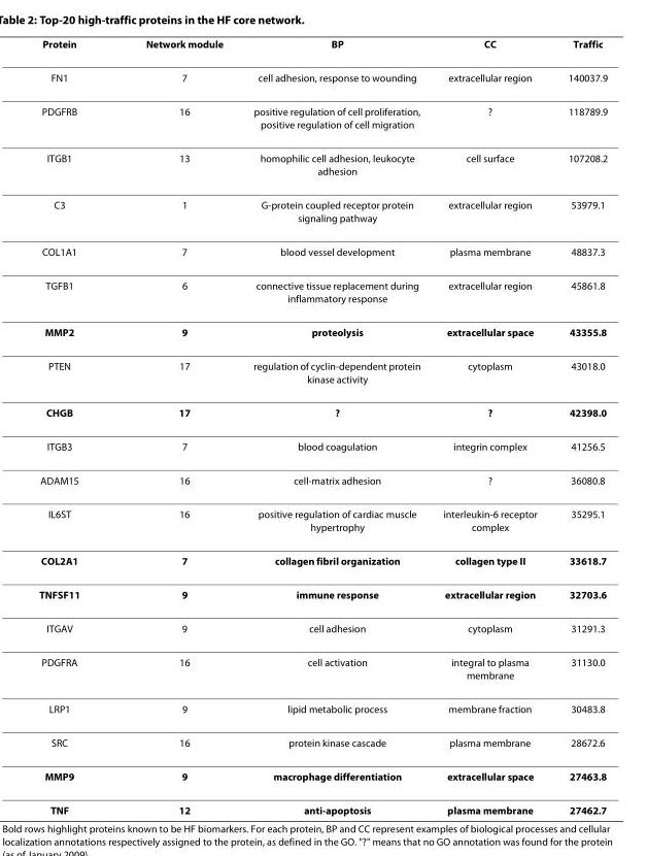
<table><thead><tr><td>Protein</td><td>Network module</td><td>BP</td><td>CC</td><td>Traffic</td></tr></thead><tbody><tr><td>FN1</td><td>7</td><td>cell adhesion, response to wounding</td><td>extracellular region</td><td>140037.9</td></tr><tr><td>PDGFRB</td><td>16</td><td>positive regulation of cell proliferation, positive regulation of cell migration</td><td>?</td><td>118789.9</td></tr><tr><td>ITGB1</td><td>13</td><td>homophilic cell adhesion, leukocyte adhesion</td><td>cell surface</td><td>107208.2</td></tr><tr><td>C3</td><td>1</td><td>G-protein coupled receptor protein signaling pathway</td><td>extracellular region</td><td>53979.1</td></tr><tr><td>COL1A1</td><td>7</td><td>blood vessel development</td><td>plasma membrane</td><td>48837.3</td></tr><tr><td>TGFB1</td><td>6</td><td>connective tissue replacement during inflammatory response</td><td>extracellular region</td><td>45861.8</td></tr><tr><td>MMP2</td><td>9</td><td>proteolysis</td><td>extracellular space</td><td>43355.8</td></tr><tr><td>PTEN</td><td>17</td><td>regulation of cyclin-dependent protein kinase activity</td><td>cytoplasm</td><td>43018.0</td></tr><tr><td>CHGB</td><td>17</td><td>?</td><td>?</td><td>42398.0</td></tr><tr><td>ITGB3</td><td>7</td><td>blood coagulation</td><td>integrin complex</td><td>41256.5</td></tr><tr><td>ADAM15</td><td>16</td><td>cell-matrix adhesion</td><td>?</td><td>36080.8</td></tr><tr><td>IL6ST</td><td>16</td><td>positive regulation of cardiac muscle hypertrophy</td><td>interleukin-6 receptor complex</td><td>35295.1</td></tr><tr><td>COL2A1</td><td>7</td><td>collagen fibril organization</td><td>collagen type II</td><td>33618.7</td></tr><tr><td>TNFSF11</td><td>9</td><td>immune response</td><td>extracellular region</td><td>32703.6</td></tr><tr><td>ITGAV</td><td>9</td><td>cell adhesion</td><td>cytoplasm</td><td>31291.3</td></tr><tr><td>PDGFRA</td><td>16</td><td>cell activation</td><td>integral to plasma membrane</td><td>31130.0</td></tr><tr><td>LRP1</td><td>9</td><td>lipid metabolic process</td><td>membrane fraction</td><td>30483.8</td></tr><tr><td>SRC</td><td>16</td><td>protein kinase cascade</td><td>plasma membrane</td><td>28672.6</td></tr><tr><td>MMP9</td><td>9</td><td>macrophage differentiation</td><td>extracellular space</td><td>27463.8</td></tr><tr><td>TNF</td><td>12</td><td>anti-apoptosis</td><td>plasma membrane</td><td>27462.7</td></tr></tbody></table>